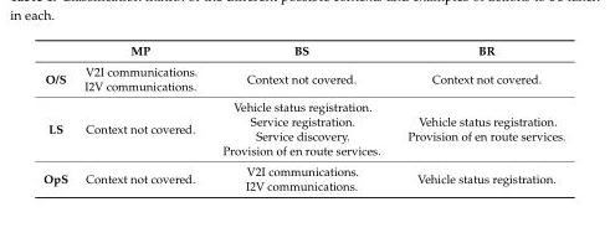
<table><thead><tr><td></td><td>MP</td><td>BS</td><td>BR</td></tr></thead><tbody><tr><td>O/S</td><td>V2I communications. I2V communications.</td><td>Context not covered.</td><td>Context not covered.</td></tr><tr><td>LS</td><td>Context not covered.</td><td>Vehicle status registration. Service registration. Service discovery. Provision of en route services.</td><td>Vehicle status registration. Provision of en route services.</td></tr><tr><td>OpS</td><td>Context not covered.</td><td>V2I communications. I2V communications.</td><td>Vehicle status registration.</td></tr></tbody></table>